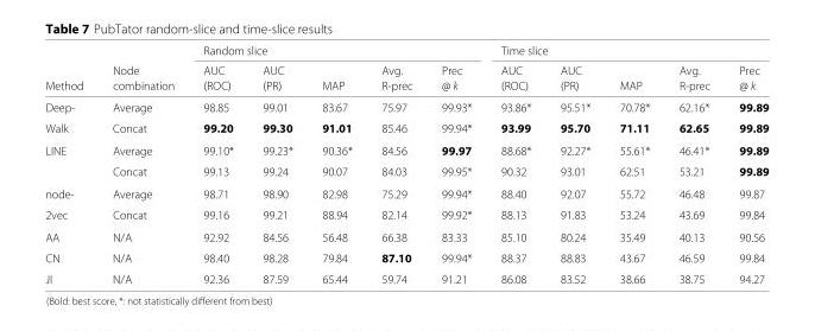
<table><thead><tr><td rowspan="3">Method</td><td rowspan="3">Node combination</td><td colspan="5">Random slice</td><td colspan="5">Time slice</td></tr><tr><td rowspan="2">AUC (ROC)</td><td rowspan="2">AUC (PR)</td><td rowspan="2">MAP</td><td rowspan="2">Avg. R-prec</td><td rowspan="2">Prec @ k</td><td rowspan="2">AUC (ROC)</td><td rowspan="2">AUC (PR)</td><td rowspan="2">MAP</td><td rowspan="2">Avg. R-prec</td><td rowspan="2">Prec @ k</td></tr><tr></tr></thead><tbody><tr><td>Deep-</td><td>Average</td><td>98.85</td><td>99.01</td><td>83.67</td><td>75.97</td><td>99.93*</td><td>93.86*</td><td>95.51*</td><td>70.78*</td><td>62.16*</td><td>99.89</td></tr><tr><td>Walk</td><td>Concat</td><td>99.20</td><td>99.30</td><td>91.01</td><td>85.46</td><td>99.94*</td><td>93.99</td><td>95.70</td><td>71.11</td><td>62.65</td><td>99.89</td></tr><tr><td rowspan="2">LINE</td><td>Average</td><td>99.10*</td><td>99.23*</td><td>90.36*</td><td>84.56</td><td>99.97</td><td>88.68*</td><td>92.27*</td><td>55.61*</td><td>46.41*</td><td>99.89</td></tr><tr><td>Concat</td><td>99.13</td><td>99.24</td><td>90.07</td><td>84.03</td><td>99.95*</td><td>90.32</td><td>93.01</td><td>62.51</td><td>53.21</td><td>99.89</td></tr><tr><td>node-</td><td>Average</td><td>98.71</td><td>98.90</td><td>82.98</td><td>75.29</td><td>99.94*</td><td>88.40</td><td>92.07</td><td>55.72</td><td>46.48</td><td>99.87</td></tr><tr><td>2vec</td><td>Concat</td><td>99.16</td><td>99.21</td><td>88.94</td><td>82.14</td><td>99.92*</td><td>88.13</td><td>91.83</td><td>53.24</td><td>43.69</td><td>99.84</td></tr><tr><td>AA</td><td>N/A</td><td>92.92</td><td>84.56</td><td>56.48</td><td>66.38</td><td>83.33</td><td>85.10</td><td>80.24</td><td>35.49</td><td>40.13</td><td>90.56</td></tr><tr><td>CN</td><td>N/A</td><td>98.40</td><td>98.28</td><td>79.84</td><td>87.10</td><td>99.94*</td><td>88.37</td><td>88.83</td><td>43.67</td><td>46.59</td><td>99.84</td></tr><tr><td>JI</td><td>N/A</td><td>92.36</td><td>87.59</td><td>65.44</td><td>59.74</td><td>91.21</td><td>86.08</td><td>83.52</td><td>38.66</td><td>38.75</td><td>94.27</td></tr></tbody></table>